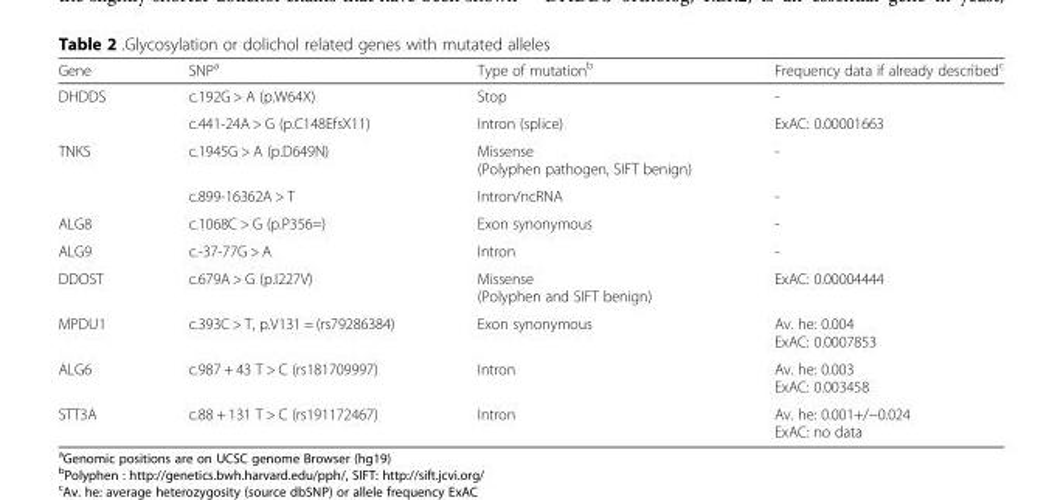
<table><thead><tr><td>Gene</td><td>SNP<sup>a</sup></td><td>Type of mutation<sup>b</sup></td><td>Frequency data if already described<sup>c</sup></td></tr></thead><tbody><tr><td rowspan="2">DHDDS</td><td>c.192G &gt; A (p.W64X)</td><td>Stop</td><td>-</td></tr><tr><td>c.441-24A &gt; G (p.C148EfsX11)</td><td>Intron (splice)</td><td>ExAC: 0.00001663</td></tr><tr><td rowspan="2">TNKS</td><td>c.1945G &gt; A (p.D649N)</td><td>Missense (Polyphen pathogen, SIFT benign)</td><td>-</td></tr><tr><td>c.899-16362A &gt; T</td><td>Intron/ncRNA</td><td>-</td></tr><tr><td>ALG8</td><td>c.1068C &gt; G (p.P356=)</td><td>Exon synonymous</td><td>-</td></tr><tr><td>ALG9</td><td>c.-37-77G &gt; A</td><td>Intron</td><td>-</td></tr><tr><td>DDOST</td><td>c.679A &gt; G (p.I227V)</td><td>Missense (Polyphen and SIFT benign)</td><td>ExAC: 0.00004444</td></tr><tr><td>MPDU1</td><td>c.393C &gt; T, p.V131 = (rs79286384)</td><td>Exon synonymous</td><td>Av. he: 0.004 ExAC: 0.0007853</td></tr><tr><td>ALG6</td><td>c.987 + 43 T &gt; C (rs181709997)</td><td>Intron</td><td>Av. he: 0.003 ExAC: 0.003458</td></tr><tr><td>STT3A</td><td>c.88 + 131 T &gt; C (rs191172467)</td><td>Intron</td><td>Av. he: 0.001+/−0.024 ExAC: no data</td></tr></tbody></table>